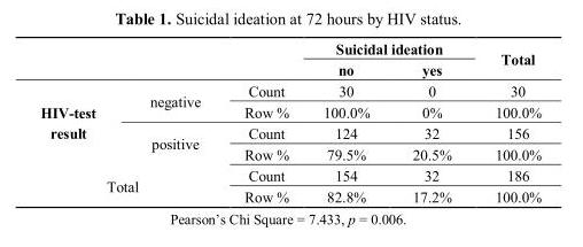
<table><thead><tr><td rowspan="2"></td><td rowspan="2"></td><td rowspan="2"></td><td colspan="2">Suicidal ideation</td><td rowspan="2">Total</td></tr><tr><td>no</td><td>yes</td></tr></thead><tbody><tr><td rowspan="4">HIV-test result</td><td rowspan="2">negative</td><td>Count</td><td>30</td><td>0</td><td>30</td></tr><tr><td>Row %</td><td>100.0%</td><td>0%</td><td>100.0%</td></tr><tr><td rowspan="2">positive</td><td>Count</td><td>124</td><td>32</td><td>156</td></tr><tr><td>Row %</td><td>79.5%</td><td>20.5%</td><td>100.0%</td></tr><tr><td rowspan="2" colspan="2">Total</td><td>Count</td><td>154</td><td>32</td><td>186</td></tr><tr><td>Row %</td><td>82.8%</td><td>17.2%</td><td>100.0%</td></tr></tbody></table>